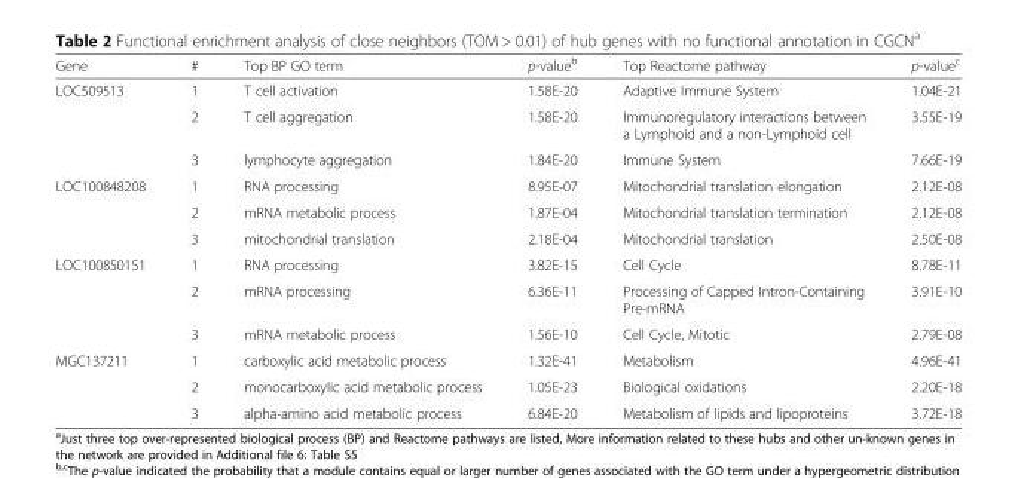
<table><thead><tr><td>Gene</td><td>#</td><td>Top BP GO term</td><td>p-value<sup>b</sup></td><td>Top Reactome pathway</td><td>p-value<sup>c</sup></td></tr></thead><tbody><tr><td rowspan="3">LOC509513</td><td>1</td><td>T cell activation</td><td>1.58E-20</td><td>Adaptive Immune System</td><td>1.04E-21</td></tr><tr><td>2</td><td>T cell aggregation</td><td>1.58E-20</td><td>Immunoregulatory interactions between a Lymphoid and a non-Lymphoid cell</td><td>3.55E-19</td></tr><tr><td>3</td><td>lymphocyte aggregation</td><td>1.84E-20</td><td>Immune System</td><td>7.66E-19</td></tr><tr><td rowspan="3">LOC100848208</td><td>1</td><td>RNA processing</td><td>8.95E-07</td><td>Mitochondrial translation elongation</td><td>2.12E-08</td></tr><tr><td>2</td><td>mRNA metabolic process</td><td>1.87E-04</td><td>Mitochondrial translation termination</td><td>2.12E-08</td></tr><tr><td>3</td><td>mitochondrial translation</td><td>2.18E-04</td><td>Mitochondrial translation</td><td>2.50E-08</td></tr><tr><td rowspan="3">LOC100850151</td><td>1</td><td>RNA processing</td><td>3.82E-15</td><td>Cell Cycle</td><td>8.78E-11</td></tr><tr><td>2</td><td>mRNA processing</td><td>6.36E-11</td><td>Processing of Capped Intron-Containing Pre-mRNA</td><td>3.91E-10</td></tr><tr><td>3</td><td>mRNA metabolic process</td><td>1.56E-10</td><td>Cell Cycle, Mitotic</td><td>2.79E-08</td></tr><tr><td rowspan="3">MGC137211</td><td>1</td><td>carboxylic acid metabolic process</td><td>1.32E-41</td><td>Metabolism</td><td>4.96E-41</td></tr><tr><td>2</td><td>monocarboxylic acid metabolic process</td><td>1.05E-23</td><td>Biological oxidations</td><td>2.20E-18</td></tr><tr><td>3</td><td>alpha-amino acid metabolic process</td><td>6.84E-20</td><td>Metabolism of lipids and lipoproteins</td><td>3.72E-18</td></tr></tbody></table>